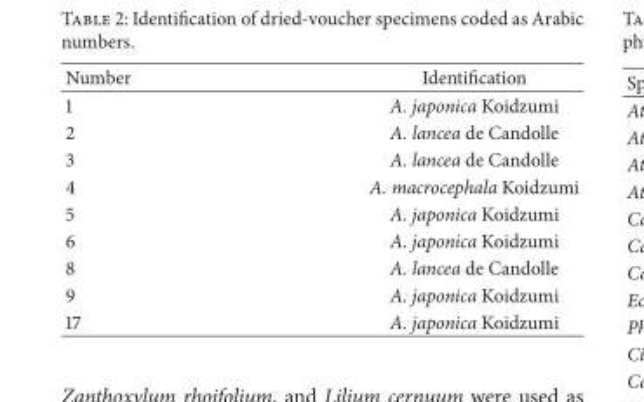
<table><thead><tr><td>Number</td><td>Identification</td></tr></thead><tbody><tr><td>1</td><td>A. japonica Koidzumi</td></tr><tr><td>2</td><td>A. lancea de Candolle</td></tr><tr><td>3</td><td>A. lancea de Candolle</td></tr><tr><td>4</td><td>A. macrocephala Koidzumi</td></tr><tr><td>5</td><td>A. japonica Koidzumi</td></tr><tr><td>6</td><td>A. japonica Koidzumi</td></tr><tr><td>8</td><td>A. lancea de Candolle</td></tr><tr><td>9</td><td>A. japonica Koidzumi</td></tr><tr><td>17</td><td>A. japonica Koidzumi</td></tr></tbody></table>